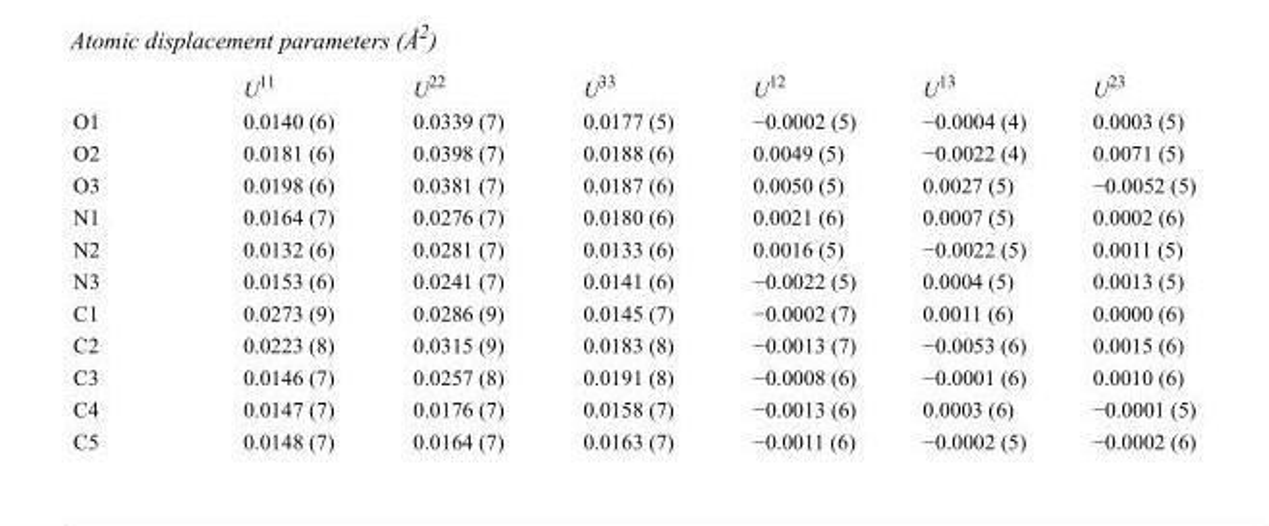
<table><thead><tr><td></td><td>U<sup>11</sup></td><td>U<sup>22</sup></td><td>U<sup>33</sup></td><td>U<sup>12</sup></td><td>U<sup>13</sup></td><td>U<sup>23</sup></td></tr></thead><tbody><tr><td>O1</td><td>0.0140 (6)</td><td>0.0339 (7)</td><td>0.0177 (5)</td><td>−0.0002 (5)</td><td>−0.0004 (4)</td><td>0.0003 (5)</td></tr><tr><td>O2</td><td>0.0181 (6)</td><td>0.0398 (7)</td><td>0.0188 (6)</td><td>0.0049 (5)</td><td>−0.0022 (4)</td><td>0.0071 (5)</td></tr><tr><td>O3</td><td>0.0198 (6)</td><td>0.0381 (7)</td><td>0.0187 (6)</td><td>0.0050 (5)</td><td>0.0027 (5)</td><td>−0.0052 (5)</td></tr><tr><td>N1</td><td>0.0164 (7)</td><td>0.0276 (7)</td><td>0.0180 (6)</td><td>0.0021 (6)</td><td>0.0007 (5)</td><td>0.0002 (6)</td></tr><tr><td>N2</td><td>0.0132 (6)</td><td>0.0281 (7)</td><td>0.0133 (6)</td><td>0.0016 (5)</td><td>−0.0022 (5)</td><td>0.0011 (5)</td></tr><tr><td>N3</td><td>0.0153 (6)</td><td>0.0241 (7)</td><td>0.0141 (6)</td><td>−0.0022 (5)</td><td>0.0004 (5)</td><td>0.0013 (5)</td></tr><tr><td>C1</td><td>0.0273 (9)</td><td>0.0286 (9)</td><td>0.0145 (7)</td><td>−0.0002 (7)</td><td>0.0011 (6)</td><td>0.0000 (6)</td></tr><tr><td>C2</td><td>0.0223 (8)</td><td>0.0315 (9)</td><td>0.0183 (8)</td><td>−0.0013 (7)</td><td>−0.0053 (6)</td><td>0.0015 (6)</td></tr><tr><td>C3</td><td>0.0146 (7)</td><td>0.0257 (8)</td><td>0.0191 (8)</td><td>−0.0008 (6)</td><td>−0.0001 (6)</td><td>0.0010 (6)</td></tr><tr><td>C4</td><td>0.0147 (7)</td><td>0.0176 (7)</td><td>0.0158 (7)</td><td>−0.0013 (6)</td><td>0.0003 (6)</td><td>−0.0001 (5)</td></tr><tr><td>C5</td><td>0.0148 (7)</td><td>0.0164 (7)</td><td>0.0163 (7)</td><td>−0.0011 (6)</td><td>−0.0002 (5)</td><td>−0.0002 (6)</td></tr></tbody></table>